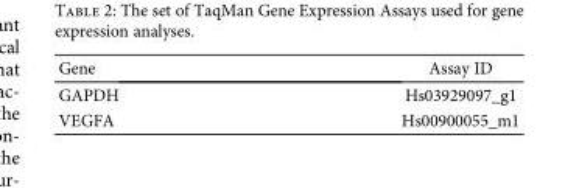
<table><thead><tr><td>Gene</td><td>Assay ID</td></tr></thead><tbody><tr><td>GAPDH</td><td>Hs03929097_g1</td></tr><tr><td>VEGFA</td><td>Hs00900055_m1</td></tr></tbody></table>